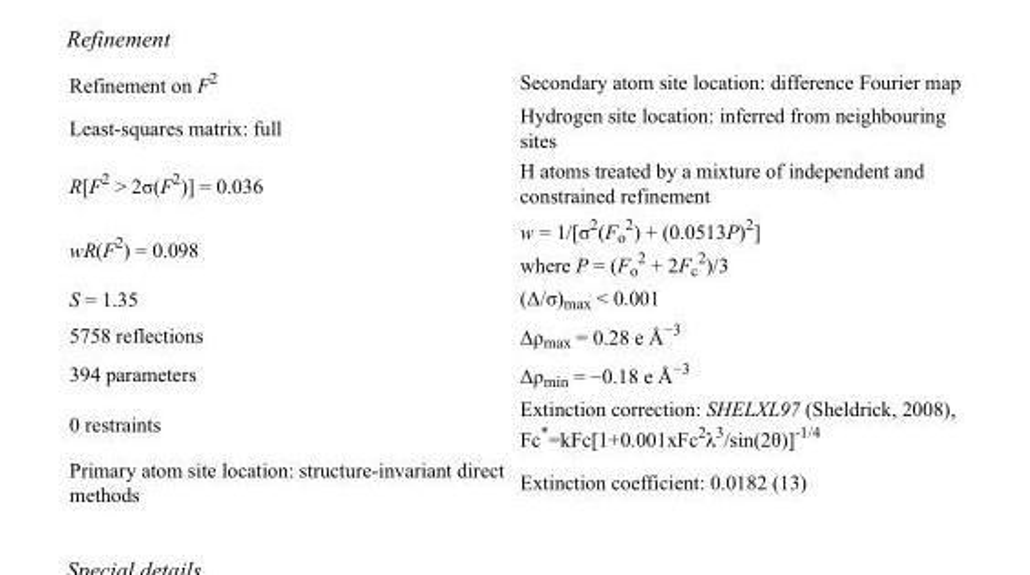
<table><tbody><tr><td>Refinement on F<sup>2</sup></td><td>Secondary atom site location: difference Fourier map</td></tr><tr><td>Least-squares matrix: full</td><td>Hydrogen site location: inferred from neighbouring sites</td></tr><tr><td>R[F<sup>2</sup> &gt; 2σ(F<sup>2</sup>)] = 0.036</td><td>H atoms treated by a mixture of independent and constrained refinement</td></tr><tr><td>wR(F<sup>2</sup>) = 0.098</td><td>w = 1/[σ<sup>2</sup>(F<sub>o</sub> <sup>2</sup>) + (0.0513P)<sup>2</sup>] where P = (F<sub>o</sub> <sup>2</sup> + 2F<sub>c</sub> <sup>2</sup>)/3</td></tr><tr><td>S = 1.35</td><td>(Δ/σ)<sub>max</sub> &lt; 0.001</td></tr><tr><td>5758 reflections</td><td>Δρ<sub>max</sub> = 0.28 e Å<sup>−3</sup></td></tr><tr><td>394 parameters</td><td>Δρ<sub>min</sub> = −0.18 e Å<sup>−3</sup></td></tr><tr><td>0 restraints</td><td>Extinction correction: SHELXL97 (Sheldrick, 2008), Fc*=kFc[1+0.001xFc<sup>2</sup>λ<sup>3</sup>/sin(2θ)]<sup>-1/4</sup></td></tr><tr><td>Primary atom site location: structure-invariant direct methods</td><td>Extinction coefficient: 0.0182 (13)</td></tr></tbody></table>